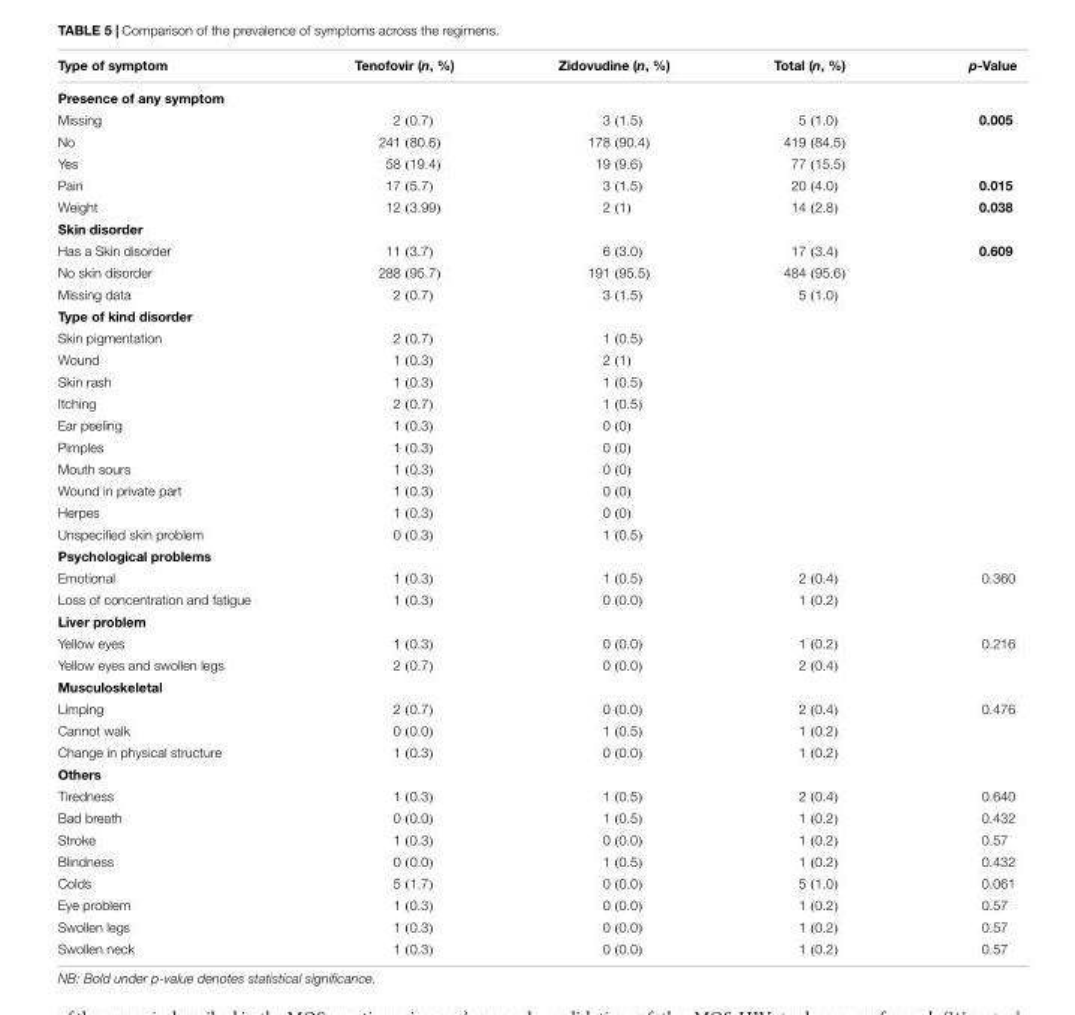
<table><thead><tr><td>Type of symptom</td><td>Tenofovir (n, %)</td><td>Zidovudine (n, %)</td><td>Total (n, %)</td><td>p-Value</td></tr></thead><tbody><tr><td colspan="5">Presence of any symptom</td></tr><tr><td>Missing</td><td>2 (0.7)</td><td>3 (1.5)</td><td>5 (1.0)</td><td>0.005</td></tr><tr><td>No</td><td>241 (80.6)</td><td>178 (90.4)</td><td>419 (84.5)</td><td></td></tr><tr><td>Yes</td><td>58 (19.4)</td><td>19 (9.6)</td><td>77 (15.5)</td><td></td></tr><tr><td>Pain</td><td>17 (5.7)</td><td>3 (1.5)</td><td>20 (4.0)</td><td>0.015</td></tr><tr><td>Weight</td><td>12 (3.99)</td><td>2 (1)</td><td>14 (2.8)</td><td>0.038</td></tr><tr><td colspan="5">Skin disorder</td></tr><tr><td>Has a Skin disorder</td><td>11 (3.7)</td><td>6 (3.0)</td><td>17 (3.4)</td><td>0.609</td></tr><tr><td>No skin disorder</td><td>288 (95.7)</td><td>191 (95.5)</td><td>484 (95.6)</td><td></td></tr><tr><td>Missing data</td><td>2 (0.7)</td><td>3 (1.5)</td><td>5 (1.0)</td><td></td></tr><tr><td colspan="5">Type of kind disorder</td></tr><tr><td>Skin pigmentation</td><td>2 (0.7)</td><td>1 (0.5)</td><td></td><td></td></tr><tr><td>Wound</td><td>1 (0.3)</td><td>2 (1)</td><td></td><td></td></tr><tr><td>Skin rash</td><td>1 (0.3)</td><td>1 (0.5)</td><td></td><td></td></tr><tr><td>Itching</td><td>2 (0.7)</td><td>1 (0.5)</td><td></td><td></td></tr><tr><td>Ear peeling</td><td>1 (0.3)</td><td>0 (0)</td><td></td><td></td></tr><tr><td>Pimples</td><td>1 (0.3)</td><td>0 (0)</td><td></td><td></td></tr><tr><td>Mouth sours</td><td>1 (0.3)</td><td>0 (0)</td><td></td><td></td></tr><tr><td>Wound in private part</td><td>1 (0.3)</td><td>0 (0)</td><td></td><td></td></tr><tr><td>Herpes</td><td>1 (0.3)</td><td>0 (0)</td><td></td><td></td></tr><tr><td>Unspecified skin problem</td><td>0 (0.3)</td><td>1 (0.5)</td><td></td><td></td></tr><tr><td colspan="5">Psychological problems</td></tr><tr><td>Emotional</td><td>1 (0.3)</td><td>1 (0.5)</td><td>2 (0.4)</td><td>0.360</td></tr><tr><td>Loss of concentration and fatigue</td><td>1 (0.3)</td><td>0 (0.0)</td><td>1 (0.2)</td><td></td></tr><tr><td colspan="5">Liver problem</td></tr><tr><td>Yellow eyes</td><td>1 (0.3)</td><td>0 (0.0)</td><td>1 (0.2)</td><td>0.216</td></tr><tr><td>Yellow eyes and swollen legs</td><td>2 (0.7)</td><td>0 (0.0)</td><td>2 (0.4)</td><td></td></tr><tr><td colspan="5">Musculoskeletal</td></tr><tr><td>Limping</td><td>2 (0.7)</td><td>0 (0.0)</td><td>2 (0.4)</td><td>0.476</td></tr><tr><td>Cannot walk</td><td>0 (0.0)</td><td>1 (0.5)</td><td>1 (0.2)</td><td></td></tr><tr><td>Change in physical structure</td><td>1 (0.3)</td><td>0 (0.0)</td><td>1 (0.2)</td><td></td></tr><tr><td colspan="5">Others</td></tr><tr><td>Tiredness</td><td>1 (0.3)</td><td>1 (0.5)</td><td>2 (0.4)</td><td>0.640</td></tr><tr><td>Bad breath</td><td>0 (0.0)</td><td>1 (0.5)</td><td>1 (0.2)</td><td>0.432</td></tr><tr><td>Stroke</td><td>1 (0.3)</td><td>0 (0.0)</td><td>1 (0.2)</td><td>0.57</td></tr><tr><td>Blindness</td><td>0 (0.0)</td><td>1 (0.5)</td><td>1 (0.2)</td><td>0.432</td></tr><tr><td>Colds</td><td>5 (1.7)</td><td>0 (0.0)</td><td>5 (1.0)</td><td>0.061</td></tr><tr><td>Eye problem</td><td>1 (0.3)</td><td>0 (0.0)</td><td>1 (0.2)</td><td>0.57</td></tr><tr><td>Swollen legs</td><td>1 (0.3)</td><td>0 (0.0)</td><td>1 (0.2)</td><td>0.57</td></tr><tr><td>Swollen neck</td><td>1 (0.3)</td><td>0 (0.0)</td><td>1 (0.2)</td><td>0.57</td></tr></tbody></table>